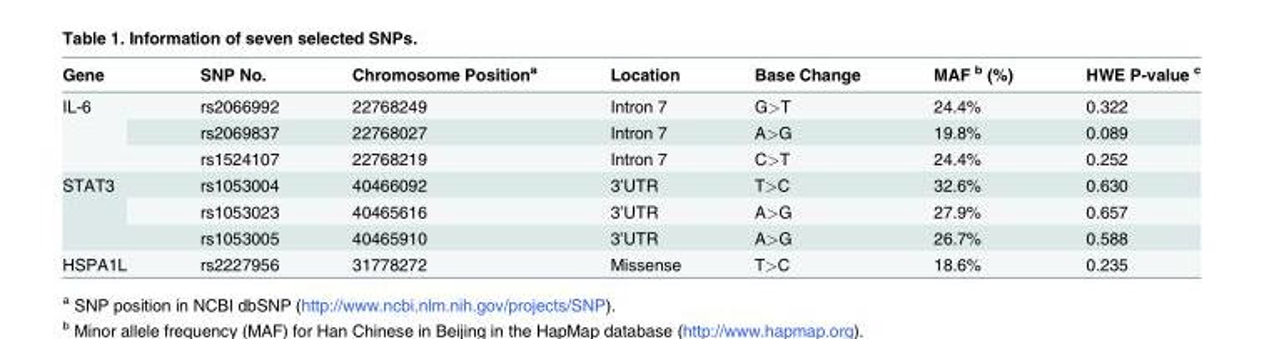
<table><thead><tr><td>Gene</td><td>SNP No.</td><td>Chromosome Position<sup>a</sup></td><td>Location</td><td>Base Change</td><td>MAF <sup>b</sup> (%)</td><td>HWE P-value <sup>c</sup></td></tr></thead><tbody><tr><td rowspan="3">IL-6</td><td>rs2066992</td><td>22768249</td><td>Intron 7</td><td>G&gt;T</td><td>24.4%</td><td>0.322</td></tr><tr><td>rs2069837</td><td>22768027</td><td>Intron 7</td><td>A&gt;G</td><td>19.8%</td><td>0.089</td></tr><tr><td>rs1524107</td><td>22768219</td><td>Intron 7</td><td>C&gt;T</td><td>24.4%</td><td>0.252</td></tr><tr><td rowspan="3">STAT3</td><td>rs1053004</td><td>40466092</td><td>3’UTR</td><td>T&gt;C</td><td>32.6%</td><td>0.630</td></tr><tr><td>rs1053023</td><td>40465616</td><td>3’UTR</td><td>A&gt;G</td><td>27.9%</td><td>0.657</td></tr><tr><td>rs1053005</td><td>40465910</td><td>3’UTR</td><td>A&gt;G</td><td>26.7%</td><td>0.588</td></tr><tr><td>HSPA1L</td><td>rs2227956</td><td>31778272</td><td>Missense</td><td>T&gt;C</td><td>18.6%</td><td>0.235</td></tr></tbody></table>